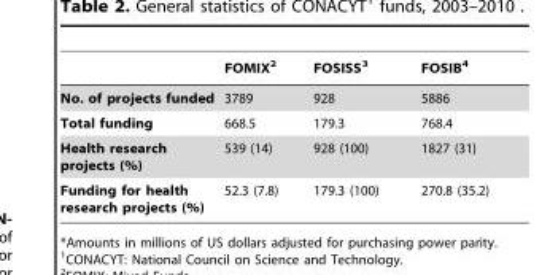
<table><thead><tr><td></td><td>FOMIX<sup>2</sup></td><td>FOSISS<sup>3</sup></td><td>FOSIB<sup>4</sup></td></tr></thead><tbody><tr><td>No. of projects funded</td><td>3789</td><td>928</td><td>5886</td></tr><tr><td>Total funding</td><td>668.5</td><td>179.3</td><td>768.4</td></tr><tr><td>Health research projects (%)</td><td>539 (14)</td><td>928 (100)</td><td>1827 (31)</td></tr><tr><td>Funding for health research projects (%)</td><td>52.3 (7.8)</td><td>179.3 (100)</td><td>270.8 (35.2)</td></tr></tbody></table>